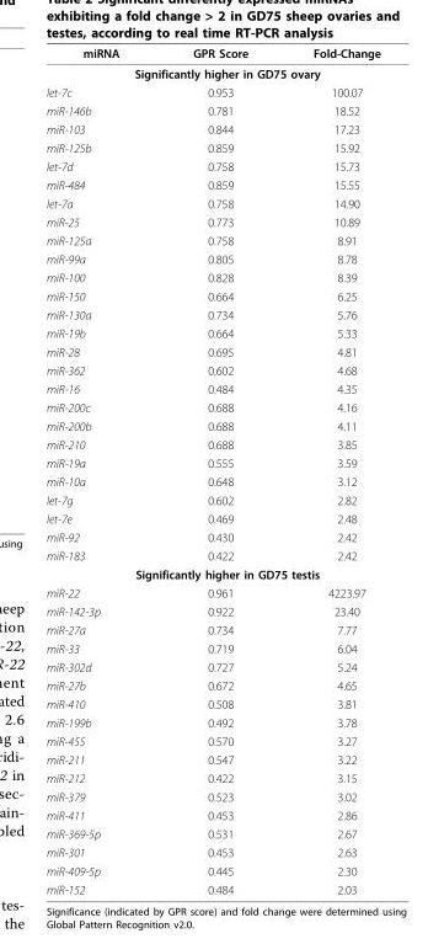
<table><thead><tr><td>miRNA</td><td>GPR Score</td><td>Fold-Change</td></tr></thead><tbody><tr><td colspan="3">Significantly higher in GD75 ovary</td></tr><tr><td>let-7c</td><td>0.953</td><td>100.07</td></tr><tr><td>miR-146b</td><td>0.781</td><td>18.52</td></tr><tr><td>miR-103</td><td>0.844</td><td>17.23</td></tr><tr><td>miR-125b</td><td>0.859</td><td>15.92</td></tr><tr><td>let-7d</td><td>0.758</td><td>15.73</td></tr><tr><td>miR-484</td><td>0.859</td><td>15.55</td></tr><tr><td>let-7a</td><td>0.758</td><td>14.90</td></tr><tr><td>miR-25</td><td>0.773</td><td>10.89</td></tr><tr><td>miR-125a</td><td>0.758</td><td>8.91</td></tr><tr><td>miR-99a</td><td>0.805</td><td>8.78</td></tr><tr><td>miR-100</td><td>0.828</td><td>8.39</td></tr><tr><td>miR-150</td><td>0.664</td><td>6.25</td></tr><tr><td>miR-130a</td><td>0.734</td><td>5.76</td></tr><tr><td>miR-19b</td><td>0.664</td><td>5.33</td></tr><tr><td>miR-28</td><td>0.695</td><td>4.81</td></tr><tr><td>miR-362</td><td>0.602</td><td>4.68</td></tr><tr><td>miR-16</td><td>0.484</td><td>4.35</td></tr><tr><td>miR-200c</td><td>0.688</td><td>4.16</td></tr><tr><td>miR-200b</td><td>0.688</td><td>4.11</td></tr><tr><td>miR-210</td><td>0.688</td><td>3.85</td></tr><tr><td>miR-19a</td><td>0.555</td><td>3.59</td></tr><tr><td>miR-10a</td><td>0.648</td><td>3.12</td></tr><tr><td>let-7g</td><td>0.602</td><td>2.82</td></tr><tr><td>let-7e</td><td>0.469</td><td>2.48</td></tr><tr><td>miR-92</td><td>0.430</td><td>2.42</td></tr><tr><td>miR-183</td><td>0.422</td><td>2.42</td></tr><tr><td colspan="3">Significantly higher in GD75 testis</td></tr><tr><td>miR-22</td><td>0.961</td><td>4223.97</td></tr><tr><td>miR-142-3p</td><td>0.922</td><td>23.40</td></tr><tr><td>miR-27a</td><td>0.734</td><td>7.77</td></tr><tr><td>miR-33</td><td>0.719</td><td>6.04</td></tr><tr><td>miR-302d</td><td>0.727</td><td>5.24</td></tr><tr><td>miR-27b</td><td>0.672</td><td>4.65</td></tr><tr><td>miR-410</td><td>0.508</td><td>3.81</td></tr><tr><td>miR-199b</td><td>0.492</td><td>3.78</td></tr><tr><td>miR-455</td><td>0.570</td><td>3.27</td></tr><tr><td>miR-211</td><td>0.547</td><td>3.22</td></tr><tr><td>miR-212</td><td>0.422</td><td>3.15</td></tr><tr><td>miR-379</td><td>0.523</td><td>3.02</td></tr><tr><td>miR-411</td><td>0.453</td><td>2.86</td></tr><tr><td>miR-369-5p</td><td>0.531</td><td>2.67</td></tr><tr><td>miR-301</td><td>0.453</td><td>2.63</td></tr><tr><td>miR-409-5p</td><td>0.445</td><td>2.30</td></tr><tr><td>miR-152</td><td>0.484</td><td>2.03</td></tr></tbody></table>